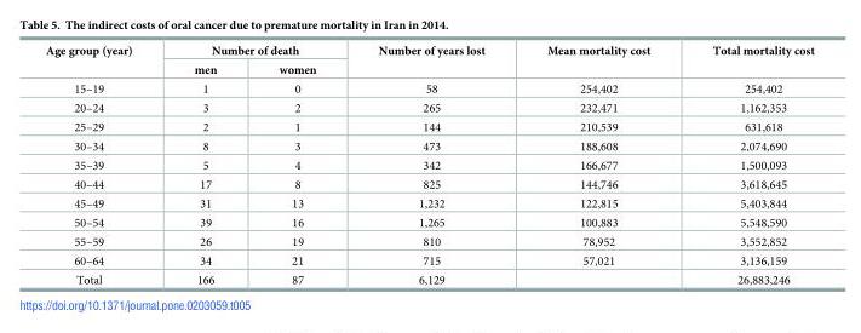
<table><thead><tr><td rowspan="2">Age group (year)</td><td colspan="2">Number of death</td><td rowspan="2">Number of years lost</td><td rowspan="2">Mean mortality cost</td><td rowspan="2">Total mortality cost</td></tr><tr><td>men</td><td>women</td></tr></thead><tbody><tr><td>15–19</td><td>1</td><td>0</td><td>58</td><td>254,402</td><td>254,402</td></tr><tr><td>20–24</td><td>3</td><td>2</td><td>265</td><td>232,471</td><td>1,162,353</td></tr><tr><td>25–29</td><td>2</td><td>1</td><td>144</td><td>210,539</td><td>631,618</td></tr><tr><td>30–34</td><td>8</td><td>3</td><td>473</td><td>188,608</td><td>2,074,690</td></tr><tr><td>35–39</td><td>5</td><td>4</td><td>342</td><td>166,677</td><td>1,500,093</td></tr><tr><td>40–44</td><td>17</td><td>8</td><td>825</td><td>144,746</td><td>3,618,645</td></tr><tr><td>45–49</td><td>31</td><td>13</td><td>1,232</td><td>122,815</td><td>5,403,844</td></tr><tr><td>50–54</td><td>39</td><td>16</td><td>1,265</td><td>100,883</td><td>5,548,590</td></tr><tr><td>55–59</td><td>26</td><td>19</td><td>810</td><td>78,952</td><td>3,552,852</td></tr><tr><td>60–64</td><td>34</td><td>21</td><td>715</td><td>57,021</td><td>3,136,159</td></tr><tr><td>Total</td><td>166</td><td>87</td><td>6,129</td><td></td><td>26,883,246</td></tr></tbody></table>